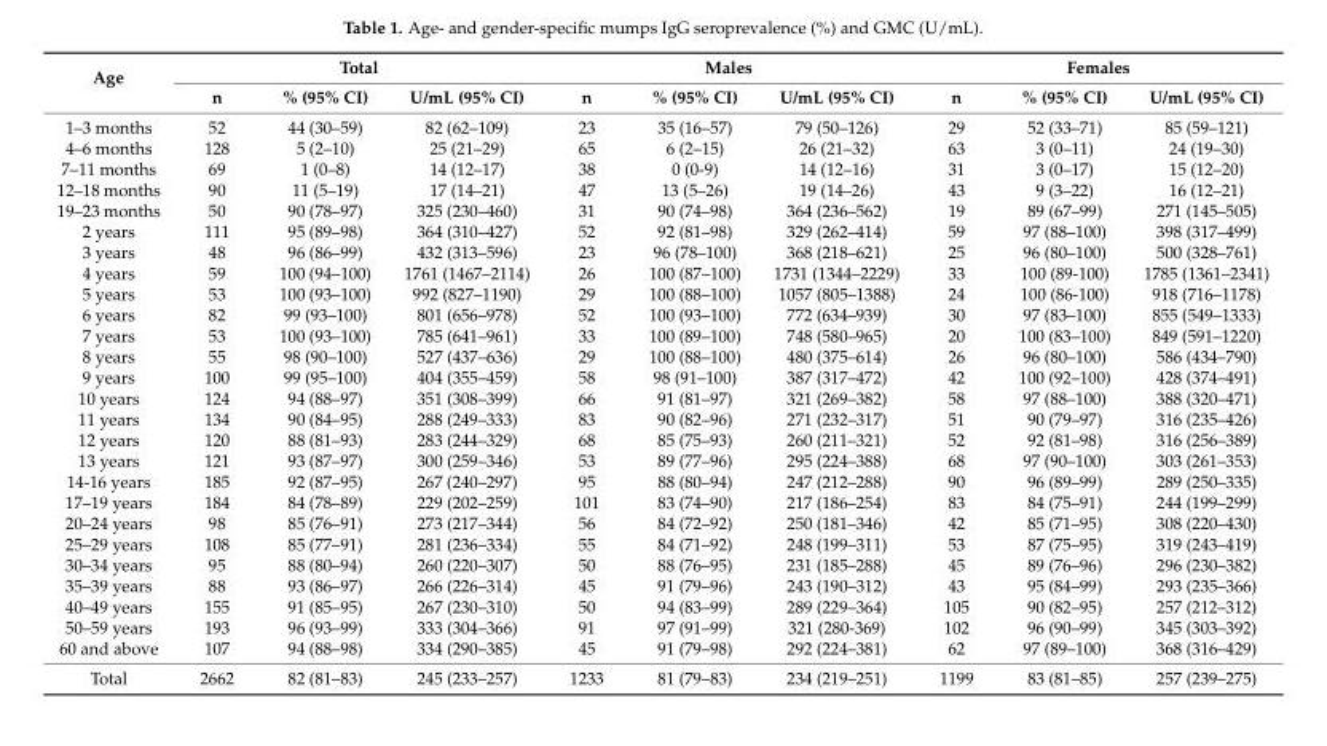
<table><thead><tr><td rowspan="2">Age</td><td colspan="3">Total</td><td colspan="3">Males</td><td colspan="3">Females</td></tr><tr><td>n</td><td>% (95% CI)</td><td>U/mL (95% CI)</td><td>n</td><td>% (95% CI)</td><td>U/mL (95% CI)</td><td>n</td><td>% (95% CI)</td><td>U/mL (95% CI)</td></tr></thead><tbody><tr><td>1–3 months</td><td>52</td><td>44 (30–59)</td><td>82 (62–109)</td><td>23</td><td>35 (16–57)</td><td>79 (50–126)</td><td>29</td><td>52 (33–71)</td><td>85 (59–121)</td></tr><tr><td>4–6 months</td><td>128</td><td>5 (2–10)</td><td>25 (21–29)</td><td>65</td><td>6 (2–15)</td><td>26 (21–32)</td><td>63</td><td>3 (0–11)</td><td>24 (19–30)</td></tr><tr><td>7–11 months</td><td>69</td><td>1 (0–8)</td><td>14 (12–17)</td><td>38</td><td>0 (0-9)</td><td>14 (12–16)</td><td>31</td><td>3 (0–17)</td><td>15 (12–20)</td></tr><tr><td>12–18 months</td><td>90</td><td>11 (5–19)</td><td>17 (14–21)</td><td>47</td><td>13 (5–26)</td><td>19 (14–26)</td><td>43</td><td>9 (3–22)</td><td>16 (12–21)</td></tr><tr><td>19–23 months</td><td>50</td><td>90 (78–97)</td><td>325 (230–460)</td><td>31</td><td>90 (74–98)</td><td>364 (236–562)</td><td>19</td><td>89 (67–99)</td><td>271 (145–505)</td></tr><tr><td>2 years</td><td>111</td><td>95 (89–98)</td><td>364 (310–427)</td><td>52</td><td>92 (81–98)</td><td>329 (262–414)</td><td>59</td><td>97 (88–100)</td><td>398 (317–499)</td></tr><tr><td>3 years</td><td>48</td><td>96 (86–99)</td><td>432 (313–596)</td><td>23</td><td>96 (78–100)</td><td>368 (218–621)</td><td>25</td><td>96 (80–100)</td><td>500 (328–761)</td></tr><tr><td>4 years</td><td>59</td><td>100 (94–100)</td><td>1761 (1467–2114)</td><td>26</td><td>100 (87–100)</td><td>1731 (1344–2229)</td><td>33</td><td>100 (89-100)</td><td>1785 (1361–2341)</td></tr><tr><td>5 years</td><td>53</td><td>100 (93–100)</td><td>992 (827–1190)</td><td>29</td><td>100 (88–100)</td><td>1057 (805–1388)</td><td>24</td><td>100 (86-100)</td><td>918 (716–1178)</td></tr><tr><td>6 years</td><td>82</td><td>99 (93–100)</td><td>801 (656–978)</td><td>52</td><td>100 (93–100)</td><td>772 (634–939)</td><td>30</td><td>97 (83–100)</td><td>855 (549–1333)</td></tr><tr><td>7 years</td><td>53</td><td>100 (93–100)</td><td>785 (641–961)</td><td>33</td><td>100 (89–100)</td><td>748 (580–965)</td><td>20</td><td>100 (83–100)</td><td>849 (591–1220)</td></tr><tr><td>8 years</td><td>55</td><td>98 (90–100)</td><td>527 (437–636)</td><td>29</td><td>100 (88–100)</td><td>480 (375–614)</td><td>26</td><td>96 (80–100)</td><td>586 (434–790)</td></tr><tr><td>9 years</td><td>100</td><td>99 (95–100)</td><td>404 (355–459)</td><td>58</td><td>98 (91–100)</td><td>387 (317–472)</td><td>42</td><td>100 (92–100)</td><td>428 (374–491)</td></tr><tr><td>10 years</td><td>124</td><td>94 (88–97)</td><td>351 (308–399)</td><td>66</td><td>91 (81–97)</td><td>321 (269–382)</td><td>58</td><td>97 (88–100)</td><td>388 (320–471)</td></tr><tr><td>11 years</td><td>134</td><td>90 (84–95)</td><td>288 (249–333)</td><td>83</td><td>90 (82–96)</td><td>271 (232–317)</td><td>51</td><td>90 (79–97)</td><td>316 (235–426)</td></tr><tr><td>12 years</td><td>120</td><td>88 (81–93)</td><td>283 (244–329)</td><td>68</td><td>85 (75–93)</td><td>260 (211–321)</td><td>52</td><td>92 (81–98)</td><td>316 (256–389)</td></tr><tr><td>13 years</td><td>121</td><td>93 (87–97)</td><td>300 (259–346)</td><td>53</td><td>89 (77–96)</td><td>295 (224–388)</td><td>68</td><td>97 (90–100)</td><td>303 (261–353)</td></tr><tr><td>14-16 years</td><td>185</td><td>92 (87–95)</td><td>267 (240–297)</td><td>95</td><td>88 (80–94)</td><td>247 (212–288)</td><td>90</td><td>96 (89–99)</td><td>289 (250–335)</td></tr><tr><td>17–19 years</td><td>184</td><td>84 (78–89)</td><td>229 (202–259)</td><td>101</td><td>83 (74–90)</td><td>217 (186–254)</td><td>83</td><td>84 (75–91)</td><td>244 (199–299)</td></tr><tr><td>20–24 years</td><td>98</td><td>85 (76–91)</td><td>273 (217–344)</td><td>56</td><td>84 (72–92)</td><td>250 (181–346)</td><td>42</td><td>85 (71–95)</td><td>308 (220–430)</td></tr><tr><td>25–29 years</td><td>108</td><td>85 (77–91)</td><td>281 (236–334)</td><td>55</td><td>84 (71–92)</td><td>248 (199–311)</td><td>53</td><td>87 (75–95)</td><td>319 (243–419)</td></tr><tr><td>30–34 years</td><td>95</td><td>88 (80–94)</td><td>260 (220–307)</td><td>50</td><td>88 (76–95)</td><td>231 (185–288)</td><td>45</td><td>89 (76–96)</td><td>296 (230–382)</td></tr><tr><td>35–39 years</td><td>88</td><td>93 (86–97)</td><td>266 (226–314)</td><td>45</td><td>91 (79–96)</td><td>243 (190–312)</td><td>43</td><td>95 (84–99)</td><td>293 (235–366)</td></tr><tr><td>40–49 years</td><td>155</td><td>91 (85–95)</td><td>267 (230–310)</td><td>50</td><td>94 (83–99)</td><td>289 (229–364)</td><td>105</td><td>90 (82–95)</td><td>257 (212–312)</td></tr><tr><td>50–59 years</td><td>193</td><td>96 (93–99)</td><td>333 (304–366)</td><td>91</td><td>97 (91–99)</td><td>321 (280-369)</td><td>102</td><td>96 (90–99)</td><td>345 (303–392)</td></tr><tr><td>60 and above</td><td>107</td><td>94 (88–98)</td><td>334 (290–385)</td><td>45</td><td>91 (79–98)</td><td>292 (224–381)</td><td>62</td><td>97 (89–100)</td><td>368 (316–429)</td></tr><tr><td>Total</td><td>2662</td><td>82 (81–83)</td><td>245 (233–257)</td><td>1233</td><td>81 (79–83)</td><td>234 (219–251)</td><td>1199</td><td>83 (81–85)</td><td>257 (239–275)</td></tr></tbody></table>